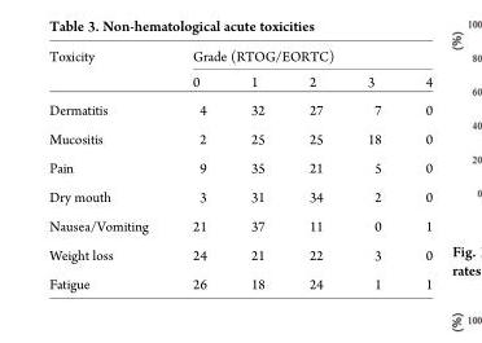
<table><thead><tr><td rowspan="2">Toxicity</td><td colspan="5">Grade (RTOG/EORTC)</td></tr><tr><td>0</td><td>1</td><td>2</td><td>3</td><td>4</td></tr></thead><tbody><tr><td>Dermatitis</td><td>4</td><td>32</td><td>27</td><td>7</td><td>0</td></tr><tr><td>Mucositis</td><td>2</td><td>25</td><td>25</td><td>18</td><td>0</td></tr><tr><td>Pain</td><td>9</td><td>35</td><td>21</td><td>5</td><td>0</td></tr><tr><td>Dry mouth</td><td>3</td><td>31</td><td>34</td><td>2</td><td>0</td></tr><tr><td>Nausea/Vomiting</td><td>21</td><td>37</td><td>11</td><td>0</td><td>1</td></tr><tr><td>Weight loss</td><td>24</td><td>21</td><td>22</td><td>3</td><td>0</td></tr><tr><td>Fatigue</td><td>26</td><td>18</td><td>24</td><td>1</td><td>1</td></tr></tbody></table>